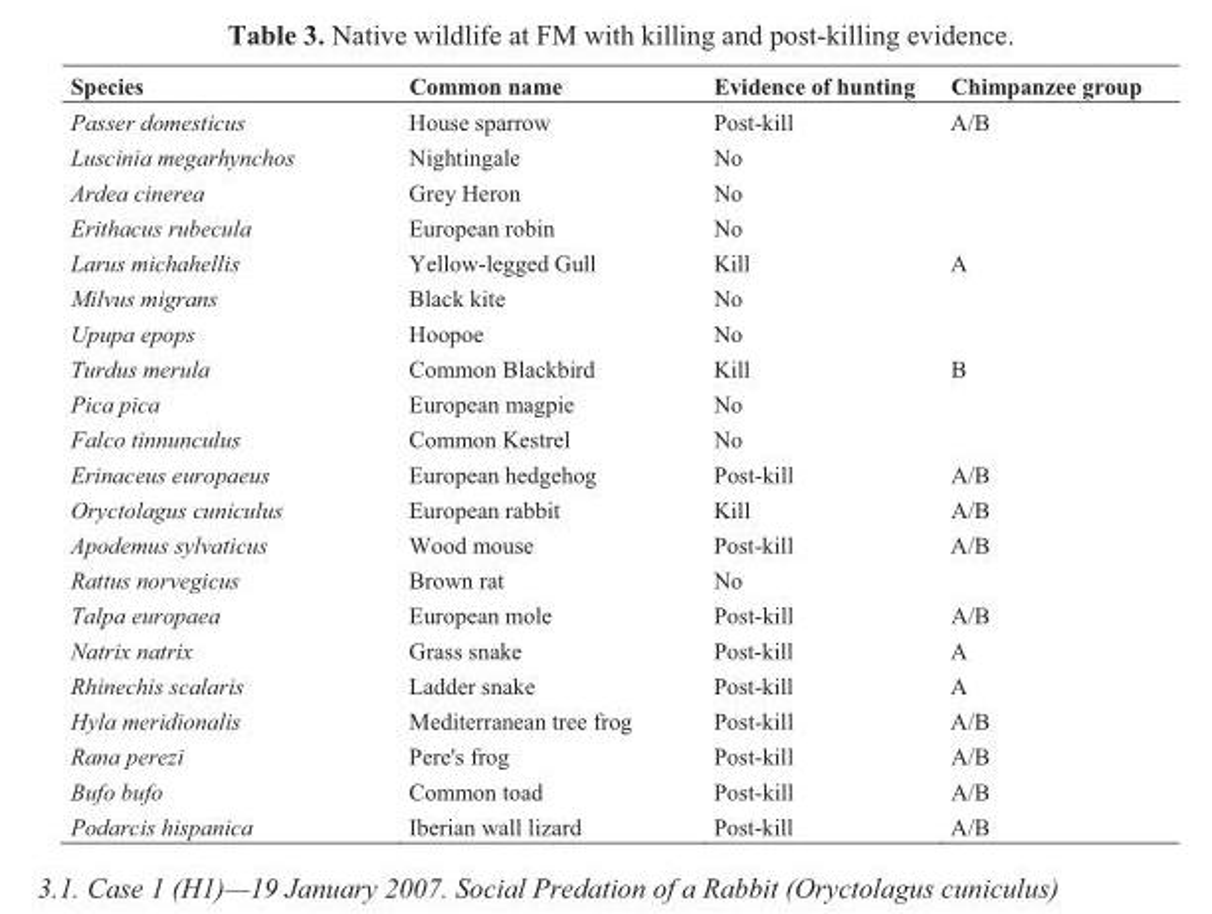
<table><thead><tr><td>Species</td><td>Common name</td><td>Evidence of hunting</td><td>Chimpanzee group</td></tr></thead><tbody><tr><td>Passer domesticus</td><td>House sparrow</td><td>Post-kill</td><td>A/B</td></tr><tr><td>Luscinia megarhynchos</td><td>Nightingale</td><td>No</td><td></td></tr><tr><td>Ardea cinerea</td><td>Grey Heron</td><td>No</td><td></td></tr><tr><td>Erithacus rubecula</td><td>European robin</td><td>No</td><td></td></tr><tr><td>Larus michahellis</td><td>Yellow-legged Gull</td><td>Kill</td><td>A</td></tr><tr><td>Milvus migrans</td><td>Black kite</td><td>No</td><td></td></tr><tr><td>Upupa epops</td><td>Hoopoe</td><td>No</td><td></td></tr><tr><td>Turdus merula</td><td>Common Blackbird</td><td>Kill</td><td>B</td></tr><tr><td>Pica pica</td><td>European magpie</td><td>No</td><td></td></tr><tr><td>Falco tinnunculus</td><td>Common Kestrel</td><td>No</td><td></td></tr><tr><td>Erinaceus europaeus</td><td>European hedgehog</td><td>Post-kill</td><td>A/B</td></tr><tr><td>Oryctolagus cuniculus</td><td>European rabbit</td><td>Kill</td><td>A/B</td></tr><tr><td>Apodemus sylvaticus</td><td>Wood mouse</td><td>Post-kill</td><td>A/B</td></tr><tr><td>Rattus norvegicus</td><td>Brown rat</td><td>No</td><td></td></tr><tr><td>Talpa europaea</td><td>European mole</td><td>Post-kill</td><td>A/B</td></tr><tr><td>Natrix natrix</td><td>Grass snake</td><td>Post-kill</td><td>A</td></tr><tr><td>Rhinechis scalaris</td><td>Ladder snake</td><td>Post-kill</td><td>A</td></tr><tr><td>Hyla meridionalis</td><td>Mediterranean tree frog</td><td>Post-kill</td><td>A/B</td></tr><tr><td>Rana perezi</td><td>Pere&#x27;s frog</td><td>Post-kill</td><td>A/B</td></tr><tr><td>Bufo bufo</td><td>Common toad</td><td>Post-kill</td><td>A/B</td></tr><tr><td>Podarcis hispanica</td><td>Iberian wall lizard</td><td>Post-kill</td><td>A/B</td></tr></tbody></table>